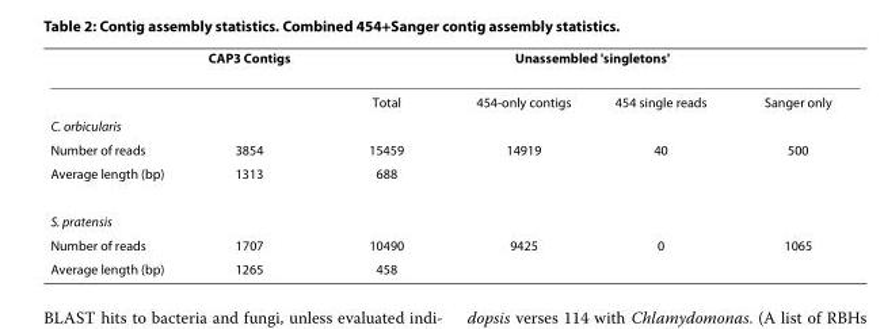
<table><thead><tr><td rowspan="2"></td><td rowspan="2">CAP3 Contigs</td><td colspan="4">Unassembled &#x27;singletons&#x27;</td></tr><tr><td>Total</td><td>454-only contigs</td><td>454 single reads</td><td>Sanger only</td></tr></thead><tbody><tr><td colspan="6">C. orbicularis</td></tr><tr><td>Number of reads</td><td>3854</td><td>15459</td><td>14919</td><td>40</td><td>500</td></tr><tr><td>Average length (bp)</td><td>1313</td><td>688</td><td></td><td></td><td></td></tr><tr><td colspan="6">S. pratensis</td></tr><tr><td>Number of reads</td><td>1707</td><td>10490</td><td>9425</td><td>0</td><td>1065</td></tr><tr><td>Average length (bp)</td><td>1265</td><td>458</td><td></td><td></td><td></td></tr></tbody></table>